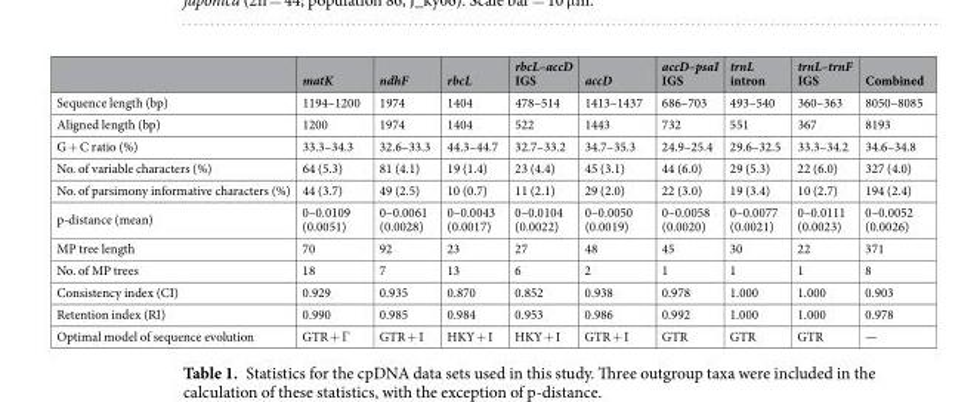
<table><thead><tr><td></td><td>matK</td><td>ndhF</td><td>rbcL</td><td>rbcL–accD IGS</td><td>accD</td><td>accD–psaI IGS</td><td>trnL intron</td><td>trnL–trnF IGS</td><td>Combined</td></tr></thead><tbody><tr><td>Sequence length (bp)</td><td>1194–1200</td><td>1974</td><td>1404</td><td>478–514</td><td>1413–1437</td><td>686–703</td><td>493–540</td><td>360–363</td><td>8050–8085</td></tr><tr><td>Aligned length (bp)</td><td>1200</td><td>1974</td><td>1404</td><td>522</td><td>1443</td><td>732</td><td>551</td><td>367</td><td>8193</td></tr><tr><td>G + C ratio (%)</td><td>33.3–34.3</td><td>32.6–33.3</td><td>44.3–44.7</td><td>32.7–33.2</td><td>34.7–35.3</td><td>24.9–25.4</td><td>29.6–32.5</td><td>33.3–34.2</td><td>34.6–34.8</td></tr><tr><td>No. of variable characters (%)</td><td>64 (5.3)</td><td>81 (4.1)</td><td>19 (1.4)</td><td>23 (4.4)</td><td>45 (3.1)</td><td>44 (6.0)</td><td>29 (5.3)</td><td>22 (6.0)</td><td>327 (4.0)</td></tr><tr><td>No. of parsimony informative characters (%)</td><td>44 (3.7)</td><td>49 (2.5)</td><td>10 (0.7)</td><td>11 (2.1)</td><td>29 (2.0)</td><td>22 (3.0)</td><td>19 (3.4)</td><td>10 (2.7)</td><td>194 (2.4)</td></tr><tr><td>p-distance (mean)</td><td>0–0.0109 (0.0051)</td><td>0–0.0061 (0.0028)</td><td>0–0.0043 (0.0017)</td><td>0–0.0104 (0.0022)</td><td>0–0.0050 (0.0019)</td><td>0–0.0058 (0.0020)</td><td>0–0.0077 (0.0021)</td><td>0–0.0111 (0.0023)</td><td>0–0.0052 (0.0026)</td></tr><tr><td>MP tree length</td><td>70</td><td>92</td><td>23</td><td>27</td><td>48</td><td>45</td><td>30</td><td>22</td><td>371</td></tr><tr><td>No. of MP trees</td><td>18</td><td>7</td><td>13</td><td>6</td><td>2</td><td>1</td><td>1</td><td>1</td><td>8</td></tr><tr><td>Consistency index (CI)</td><td>0.929</td><td>0.935</td><td>0.870</td><td>0.852</td><td>0.938</td><td>0.978</td><td>1.000</td><td>1.000</td><td>0.903</td></tr><tr><td>Retention index (RI)</td><td>0.990</td><td>0.985</td><td>0.984</td><td>0.953</td><td>0.986</td><td>0.992</td><td>1.000</td><td>1.000</td><td>0.978</td></tr><tr><td>Optimal model of sequence evolution</td><td>GTR + Γ</td><td>GTR + I</td><td>HKY + I</td><td>HKY + I</td><td>GTR + I</td><td>GTR</td><td>GTR</td><td>GTR</td><td>—</td></tr></tbody></table>